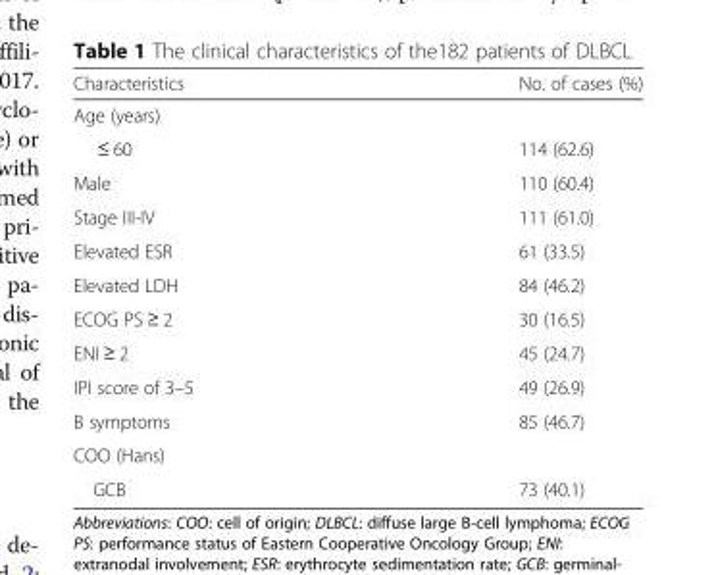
<table><thead><tr><td>Characteristics</td><td>No. of cases (%)</td></tr></thead><tbody><tr><td colspan="2">Age (years)</td></tr><tr><td>≤ 60</td><td>114 (62.6)</td></tr><tr><td>Male</td><td>110 (60.4)</td></tr><tr><td>Stage III-IV</td><td>111 (61.0)</td></tr><tr><td>Elevated ESR</td><td>61 (33.5)</td></tr><tr><td>Elevated LDH</td><td>84 (46.2)</td></tr><tr><td>ECOG PS ≥ 2</td><td>30 (16.5)</td></tr><tr><td>ENI ≥ 2</td><td>45 (24.7)</td></tr><tr><td>IPI score of 3–5</td><td>49 (26.9)</td></tr><tr><td>B symptoms</td><td>85 (46.7)</td></tr><tr><td colspan="2">COO (Hans)</td></tr><tr><td>GCB</td><td>73 (40.1)</td></tr></tbody></table>